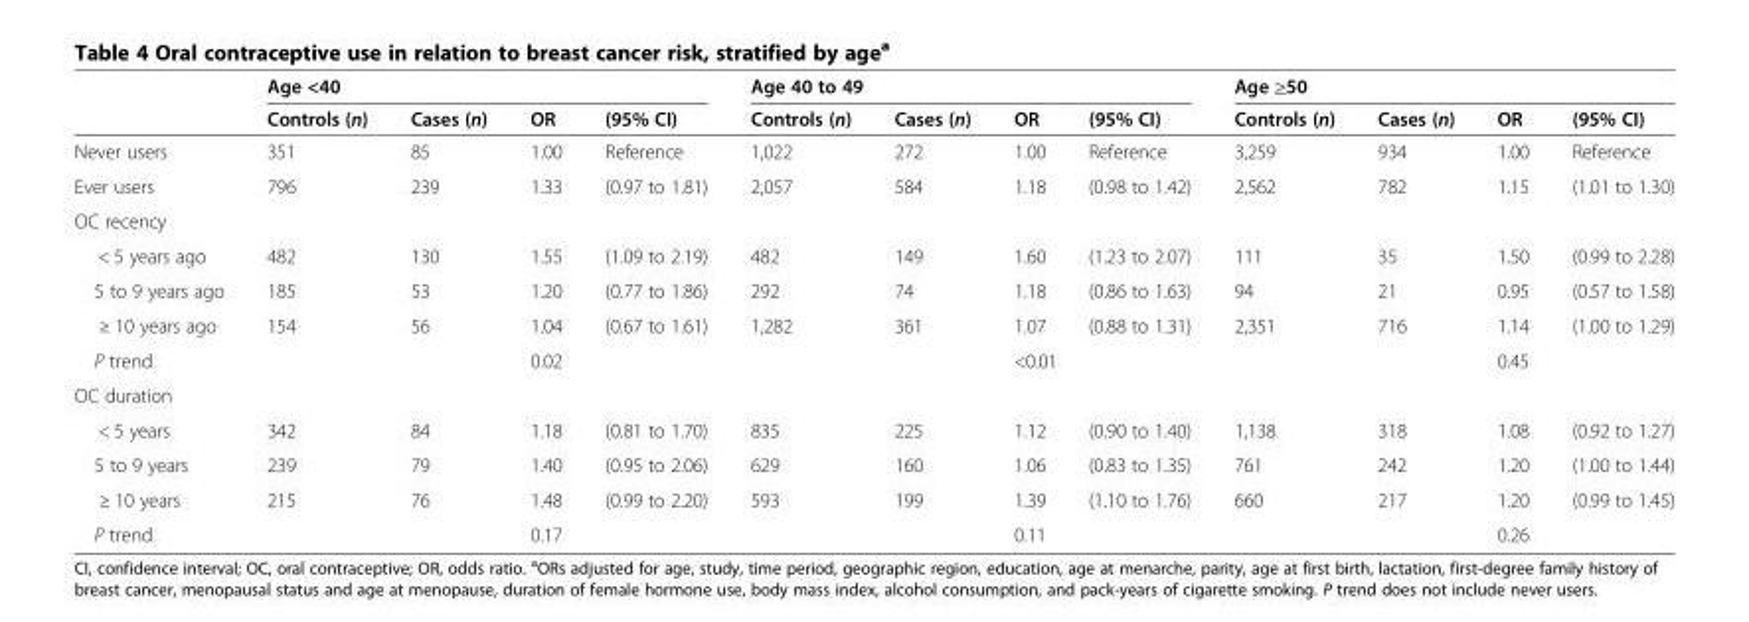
<table><thead><tr><td rowspan="2"></td><td colspan="4">Age &lt;40</td><td colspan="4">Age 40 to 49</td><td colspan="4">Age ≥50</td></tr><tr><td>Controls (n)</td><td>Cases (n)</td><td>OR</td><td>(95% CI)</td><td>Controls (n)</td><td>Cases (n)</td><td>OR</td><td>(95% CI)</td><td>Controls (n)</td><td>Cases (n)</td><td>OR</td><td>(95% CI)</td></tr></thead><tbody><tr><td>Never users</td><td>351</td><td>85</td><td>1.00</td><td>Reference</td><td>1,022</td><td>272</td><td>1.00</td><td>Reference</td><td>3,259</td><td>934</td><td>1.00</td><td>Reference</td></tr><tr><td>Ever users</td><td>796</td><td>239</td><td>1.33</td><td>(0.97 to 1.81)</td><td>2,057</td><td>584</td><td>1.18</td><td>(0.98 to 1.42)</td><td>2,562</td><td>782</td><td>1.15</td><td>(1.01 to 1.30)</td></tr><tr><td colspan="13">OC recency</td></tr><tr><td>&lt; 5 years ago</td><td>482</td><td>130</td><td>1.55</td><td>(1.09 to 2.19)</td><td>482</td><td>149</td><td>1.60</td><td>(1.23 to 2.07)</td><td>111</td><td>35</td><td>1.50</td><td>(0.99 to 2.28)</td></tr><tr><td>5 to 9 years ago</td><td>185</td><td>53</td><td>1.20</td><td>(0.77 to 1.86)</td><td>292</td><td>74</td><td>1.18</td><td>(0.86 to 1.63)</td><td>94</td><td>21</td><td>0.95</td><td>(0.57 to 1.58)</td></tr><tr><td>≥ 10 years ago</td><td>154</td><td>56</td><td>1.04</td><td>(0.67 to 1.61)</td><td>1,282</td><td>361</td><td>1.07</td><td>(0.88 to 1.31)</td><td>2,351</td><td>716</td><td>1.14</td><td>(1.00 to 1.29)</td></tr><tr><td>P trend</td><td></td><td></td><td colspan="2">0.02</td><td></td><td></td><td colspan="2">&lt;0.01</td><td></td><td></td><td colspan="2">0.45</td></tr><tr><td colspan="13">OC duration</td></tr><tr><td>&lt; 5 years</td><td>342</td><td>84</td><td>1.18</td><td>(0.81 to 1.70)</td><td>835</td><td>225</td><td>1.12</td><td>(0.90 to 1.40)</td><td>1,138</td><td>318</td><td>1.08</td><td>(0.92 to 1.27)</td></tr><tr><td>5 to 9 years</td><td>239</td><td>79</td><td>1.40</td><td>(0.95 to 2.06)</td><td>629</td><td>160</td><td>1.06</td><td>(0.83 to 1.35)</td><td>761</td><td>242</td><td>1.20</td><td>(1.00 to 1.44)</td></tr><tr><td>≥ 10 years</td><td>215</td><td>76</td><td>1.48</td><td>(0.99 to 2.20)</td><td>593</td><td>199</td><td>1.39</td><td>(1.10 to 1.76)</td><td>660</td><td>217</td><td>1.20</td><td>(0.99 to 1.45)</td></tr><tr><td>P trend</td><td></td><td></td><td colspan="2">0.17</td><td></td><td></td><td colspan="2">0.11</td><td></td><td></td><td colspan="2">0.26</td></tr></tbody></table>